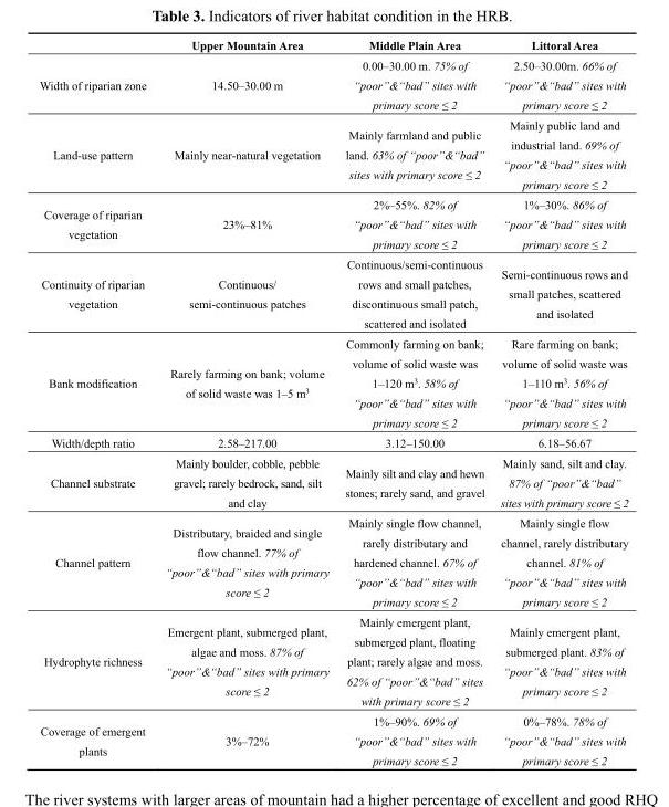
<table><thead><tr><td></td><td>Upper Mountain Area</td><td>Middle Plain Area</td><td>Littoral Area</td></tr></thead><tbody><tr><td>Width of riparian zone</td><td>14.50–30.00 m</td><td>0.00–30.00 m. 75% of “poor”&amp;“bad” sites with primary score ≤ 2</td><td>2.50–30.00m. 66% of “poor”&amp;“bad” sites with primary score ≤ 2</td></tr><tr><td>Land-use pattern</td><td>Mainly near-natural vegetation</td><td>Mainly farmland and public land. 63% of “poor”&amp;“bad” sites with primary score ≤ 2</td><td>Mainly public land and industrial land. 69% of “poor”&amp;“bad” sites with primary score ≤ 2</td></tr><tr><td>Coverage of riparian vegetation</td><td>23%–81%</td><td>2%–55%. 82% of “poor”&amp;“bad” sites with primary score ≤ 2</td><td>1%–30%. 86% of “poor”&amp;“bad” sites with primary score ≤ 2</td></tr><tr><td>Continuity of riparian vegetation</td><td>Continuous/ semi-continuous patches</td><td>Continuous/semi-continuous rows and small patches, discontinuous small patch, scattered and isolated</td><td>Semi-continuous rows and small patches, scattered and isolated</td></tr><tr><td>Bank modification</td><td>Rarely farming on bank; volume of solid waste was 1–5 m<sup>3</sup></td><td>Commonly farming on bank; volume of solid waste was 1–120 m<sup>3</sup>. 58% of “poor”&amp;“bad” sites with primary score ≤ 2</td><td>Rare farming on bank; volume of solid waste was 1–110 m<sup>3</sup>. 56% of “poor”&amp;“bad” sites with primary score ≤ 2</td></tr><tr><td>Width/depth ratio</td><td>2.58–217.00</td><td>3.12–150.00</td><td>6.18–56.67</td></tr><tr><td>Channel substrate</td><td>Mainly boulder, cobble, pebble gravel; rarely bedrock, sand, silt and clay</td><td>Mainly silt and clay and hewn stones; rarely sand, and gravel</td><td>Mainly sand, silt and clay. 87% of “poor”&amp;“bad” sites with primary score ≤ 2</td></tr><tr><td>Channel pattern</td><td>Distributary, braided and single flow channel. 77% of “poor”&amp;“bad” sites with primary score ≤ 2</td><td>Mainly single flow channel, rarely distributary and hardened channel. 67% of “poor”&amp;“bad” sites with primary score ≤ 2</td><td>Mainly single flow channel, rarely distributary channel. 81% of “poor”&amp;“bad” sites with primary score ≤ 2</td></tr><tr><td>Hydrophyte richness</td><td>Emergent plant, submerged plant, algae and moss. 87% of “poor”&amp;“bad” sites with primary score ≤ 2</td><td>Mainly emergent plant, submerged plant, floating plant; rarely algae and moss. 62% of “poor”&amp;“bad” sites with primary score ≤ 2</td><td>Mainly emergent plant, submerged plant. 83% of “poor”&amp;“bad” sites with primary score ≤ 2</td></tr><tr><td>Coverage of emergent plants</td><td>3%–72%</td><td>1%–90%. 69% of “poor”&amp;“bad” sites with primary score ≤ 2</td><td>0%–78%. 78% of “poor”&amp;“bad” sites with primary score ≤ 2</td></tr></tbody></table>